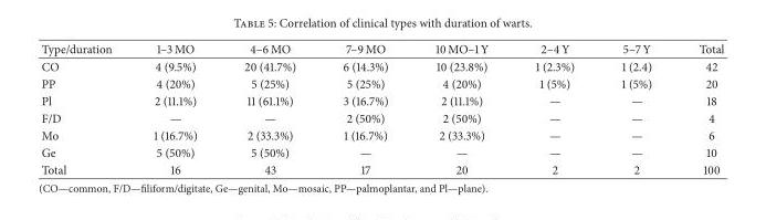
<table><thead><tr><td>Type/duration</td><td>1–3 MO</td><td>4–6 MO</td><td>7–9 MO</td><td>10 MO–1 Y</td><td>2–4 Y</td><td>5–7 Y</td><td>Total</td></tr></thead><tbody><tr><td>CO</td><td>4 (9.5%)</td><td>20 (41.7%)</td><td>6 (14.3%)</td><td>10 (23.8%)</td><td>1 (2.3%)</td><td>1 (2.4)</td><td>42</td></tr><tr><td>PP</td><td>4 (20%)</td><td>5 (25%)</td><td>5 (25%)</td><td>4 (20%)</td><td>1 (5%)</td><td>1 (5%)</td><td>20</td></tr><tr><td>Pl</td><td>2 (11.1%)</td><td>11 (61.1%)</td><td>3 (16.7%)</td><td>2 (11.1%)</td><td>—</td><td>—</td><td>18</td></tr><tr><td>F/D</td><td>—</td><td>—</td><td>2 (50%)</td><td>2 (50%)</td><td>—</td><td>—</td><td>4</td></tr><tr><td>Mo</td><td>1 (16.7%)</td><td>2 (33.3%)</td><td>1 (16.7%)</td><td>2 (33.3%)</td><td>—</td><td>—</td><td>6</td></tr><tr><td>Ge</td><td>5 (50%)</td><td>5 (50%)</td><td>—</td><td>—</td><td>—</td><td>—</td><td>10</td></tr><tr><td>Total</td><td>16</td><td>43</td><td>17</td><td>20</td><td>2</td><td>2</td><td>100</td></tr></tbody></table>